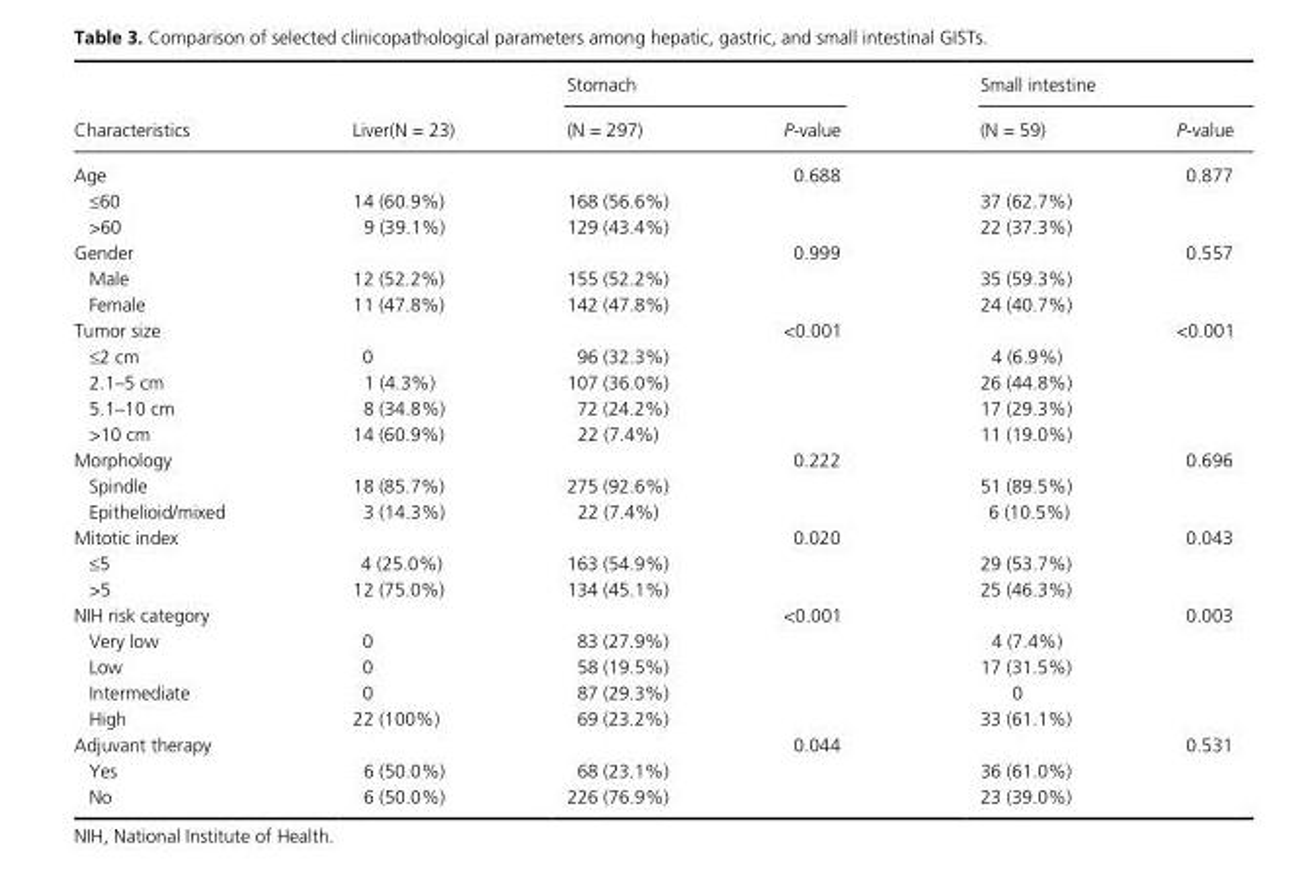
<table><thead><tr><td rowspan="2">Characteristics</td><td rowspan="2">Liver(N = 23)</td><td colspan="2">Stomach</td><td colspan="2">Small intestine</td></tr><tr><td>(N = 297)</td><td>P- value</td><td>(N = 59)</td><td>P- value</td></tr></thead><tbody><tr><td>Age</td><td></td><td></td><td>0.688</td><td></td><td>0.877</td></tr><tr><td>≤60</td><td>14 (60.9%)</td><td>168 (56.6%)</td><td></td><td>37 (62.7%)</td><td></td></tr><tr><td>&gt;60</td><td>9 (39.1%)</td><td>129 (43.4%)</td><td></td><td>22 (37.3%)</td><td></td></tr><tr><td>Gender</td><td></td><td></td><td>0.999</td><td></td><td>0.557</td></tr><tr><td>Male</td><td>12 (52.2%)</td><td>155 (52.2%)</td><td></td><td>35 (59.3%)</td><td></td></tr><tr><td>Female</td><td>11 (47.8%)</td><td>142 (47.8%)</td><td></td><td>24 (40.7%)</td><td></td></tr><tr><td>Tumor size</td><td></td><td></td><td>&lt;0.001</td><td></td><td>&lt;0.001</td></tr><tr><td>≤2 cm</td><td>0</td><td>96 (32.3%)</td><td></td><td>4 (6.9%)</td><td></td></tr><tr><td>2.1–5 cm</td><td>1 (4.3%)</td><td>107 (36.0%)</td><td></td><td>26 (44.8%)</td><td></td></tr><tr><td>5.1–10 cm</td><td>8 (34.8%)</td><td>72 (24.2%)</td><td></td><td>17 (29.3%)</td><td></td></tr><tr><td>&gt;10 cm</td><td>14 (60.9%)</td><td>22 (7.4%)</td><td></td><td>11 (19.0%)</td><td></td></tr><tr><td>Morphology</td><td></td><td></td><td>0.222</td><td></td><td>0.696</td></tr><tr><td>Spindle</td><td>18 (85.7%)</td><td>275 (92.6%)</td><td></td><td>51 (89.5%)</td><td></td></tr><tr><td>Epithelioid/mixed</td><td>3 (14.3%)</td><td>22 (7.4%)</td><td></td><td>6 (10.5%)</td><td></td></tr><tr><td>Mitotic index</td><td></td><td></td><td>0.020</td><td></td><td>0.043</td></tr><tr><td>≤5</td><td>4 (25.0%)</td><td>163 (54.9%)</td><td></td><td>29 (53.7%)</td><td></td></tr><tr><td>&gt;5</td><td>12 (75.0%)</td><td>134 (45.1%)</td><td></td><td>25 (46.3%)</td><td></td></tr><tr><td>NIH risk category</td><td></td><td></td><td>&lt;0.001</td><td></td><td>0.003</td></tr><tr><td>Very low</td><td>0</td><td>83 (27.9%)</td><td></td><td>4 (7.4%)</td><td></td></tr><tr><td>Low</td><td>0</td><td>58 (19.5%)</td><td></td><td>17 (31.5%)</td><td></td></tr><tr><td>Intermediate</td><td>0</td><td>87 (29.3%)</td><td></td><td>0</td><td></td></tr><tr><td>High</td><td>22 (100%)</td><td>69 (23.2%)</td><td></td><td>33 (61.1%)</td><td></td></tr><tr><td>Adjuvant therapy</td><td></td><td></td><td>0.044</td><td></td><td>0.531</td></tr><tr><td>Yes</td><td>6 (50.0%)</td><td>68 (23.1%)</td><td></td><td>36 (61.0%)</td><td></td></tr><tr><td>No</td><td>6 (50.0%)</td><td>226 (76.9%)</td><td></td><td>23 (39.0%)</td><td></td></tr></tbody></table>